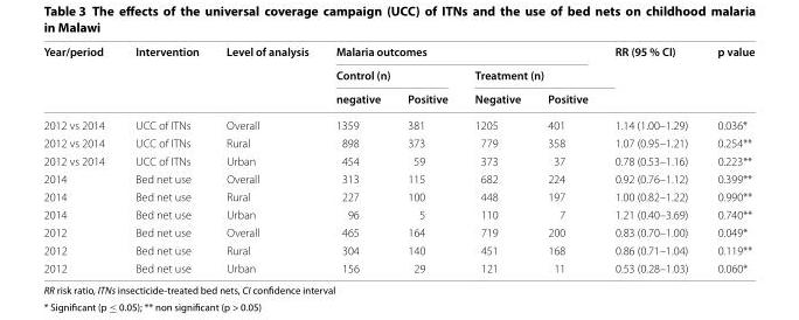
<table><thead><tr><td rowspan="3">Year/period</td><td rowspan="3">Intervention</td><td rowspan="3">Level of analysis</td><td colspan="4">Malaria outcomes</td><td rowspan="3">RR (95 % CI)</td><td rowspan="3">p value</td></tr><tr><td colspan="2">Control (n)</td><td colspan="2">Treatment (n)</td></tr><tr><td>negative</td><td>Positive</td><td>Negative</td><td>Positive</td></tr></thead><tbody><tr><td>2012 vs 2014</td><td>UCC of ITNs</td><td>Overall</td><td>1359</td><td>381</td><td>1205</td><td>401</td><td>1.14 (1.00–1.29)</td><td>0.036*</td></tr><tr><td>2012 vs 2014</td><td>UCC of ITNs</td><td>Rural</td><td>898</td><td>373</td><td>779</td><td>358</td><td>1.07 (0.95–1.21)</td><td>0.254**</td></tr><tr><td>2012 vs 2014</td><td>UCC of ITNs</td><td>Urban</td><td>454</td><td>59</td><td>373</td><td>37</td><td>0.78 (0.53–1.16)</td><td>0.223**</td></tr><tr><td>2014</td><td>Bed net use</td><td>Overall</td><td>313</td><td>115</td><td>682</td><td>224</td><td>0.92 (0.76–1.12)</td><td>0.399**</td></tr><tr><td>2014</td><td>Bed net use</td><td>Rural</td><td>227</td><td>100</td><td>448</td><td>197</td><td>1.00 (0.82–1.22)</td><td>0.990**</td></tr><tr><td>2014</td><td>Bed net use</td><td>Urban</td><td>96</td><td>5</td><td>110</td><td>7</td><td>1.21 (0.40–3.69)</td><td>0.740**</td></tr><tr><td>2012</td><td>Bed net use</td><td>Overall</td><td>465</td><td>164</td><td>719</td><td>200</td><td>0.83 (0.70–1.00)</td><td>0.049*</td></tr><tr><td>2012</td><td>Bed net use</td><td>Rural</td><td>304</td><td>140</td><td>451</td><td>168</td><td>0.86 (0.71–1.04)</td><td>0.119**</td></tr><tr><td>2012</td><td>Bed net use</td><td>Urban</td><td>156</td><td>29</td><td>121</td><td>11</td><td>0.53 (0.28–1.03)</td><td>0.060*</td></tr></tbody></table>